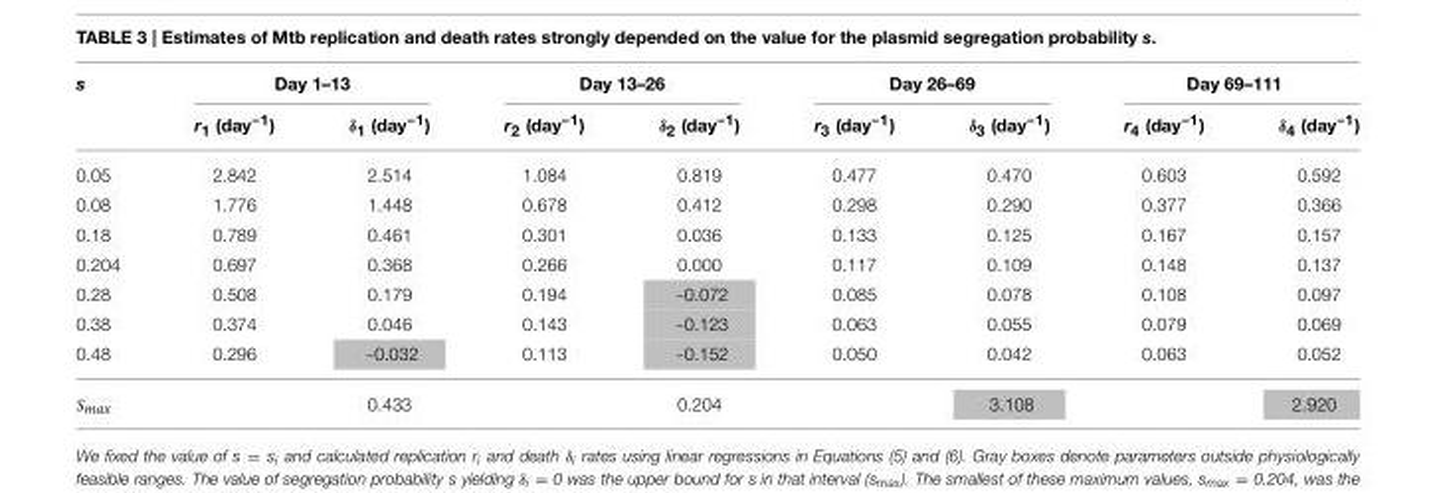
<table><thead><tr><td rowspan="2">s</td><td colspan="2">Day 1–13</td><td colspan="2">Day 13–26</td><td colspan="2">Day 26–69</td><td colspan="2">Day 69–111</td></tr><tr><td>r<sub>1</sub> (day<sup>−1</sup>)</td><td>δ<sub>1</sub> (day<sup>−1</sup>)</td><td>r<sub>2</sub> (day<sup>−1</sup>)</td><td>δ<sub>2</sub> (day<sup>−1</sup>)</td><td>r<sub>3</sub> (day<sup>−1</sup>)</td><td>δ<sub>3</sub> (day<sup>−1</sup>)</td><td>r<sub>4</sub> (day<sup>−1</sup>)</td><td>δ<sub>4</sub> (day<sup>−1</sup>)</td></tr></thead><tbody><tr><td>0.05</td><td>2.842</td><td>2.514</td><td>1.084</td><td>0.819</td><td>0.477</td><td>0.470</td><td>0.603</td><td>0.592</td></tr><tr><td>0.08</td><td>1.776</td><td>1.448</td><td>0.678</td><td>0.412</td><td>0.298</td><td>0.290</td><td>0.377</td><td>0.366</td></tr><tr><td>0.18</td><td>0.789</td><td>0.461</td><td>0.301</td><td>0.036</td><td>0.133</td><td>0.125</td><td>0.167</td><td>0.157</td></tr><tr><td>0.204</td><td>0.697</td><td>0.368</td><td>0.266</td><td>0.000</td><td>0.117</td><td>0.109</td><td>0.148</td><td>0.137</td></tr><tr><td>0.28</td><td>0.508</td><td>0.179</td><td>0.194</td><td>−0.072</td><td>0.085</td><td>0.078</td><td>0.108</td><td>0.097</td></tr><tr><td>0.38</td><td>0.374</td><td>0.046</td><td>0.143</td><td>−0.123</td><td>0.063</td><td>0.055</td><td>0.079</td><td>0.069</td></tr><tr><td>0.48</td><td>0.296</td><td>−0.032</td><td>0.113</td><td>−0.152</td><td>0.050</td><td>0.042</td><td>0.063</td><td>0.052</td></tr><tr><td>S<sub>max</sub></td><td></td><td>0.433</td><td></td><td>0.204</td><td></td><td>3.108</td><td></td><td>2.920</td></tr></tbody></table>